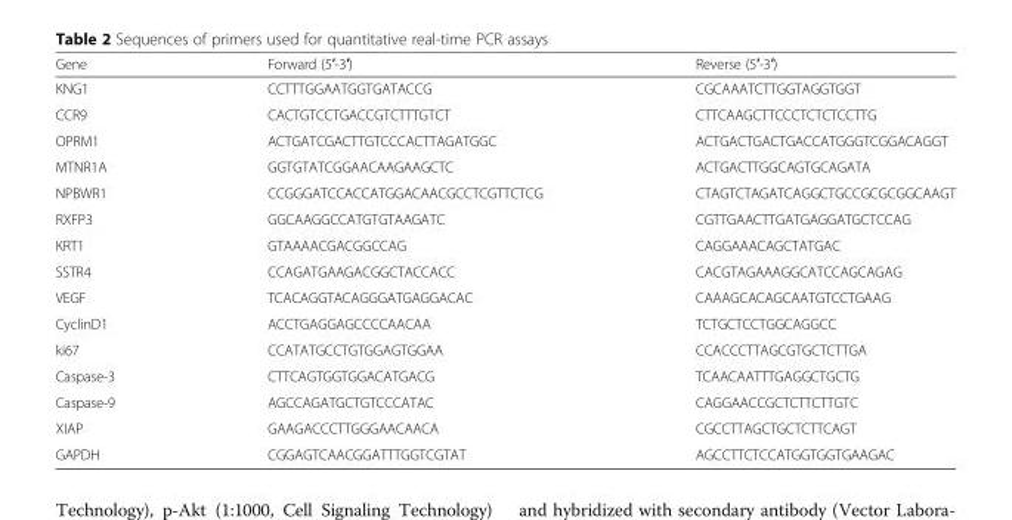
<table><thead><tr><td>Gene</td><td>Forward (5′-3′)</td><td>Reverse (5′-3′)</td></tr></thead><tbody><tr><td>KNG1</td><td>CCTTTGGAATGGTGATACCG</td><td>CGCAAATCTTGGTAGGTGGT</td></tr><tr><td>CCR9</td><td>CACTGTCCTGACCGTCTTTGTCT</td><td>CTTCAAGCTTCCCTCTCTCCTTG</td></tr><tr><td>OPRM1</td><td>ACTGATCGACTTGTCCCACTTAGATGGC</td><td>ACTGACTGACTGACCATGGGTCGGACAGGT</td></tr><tr><td>MTNR1A</td><td>GGTGTATCGGAACAAGAAGCTC</td><td>ACTGACTTGGCAGTGCAGATA</td></tr><tr><td>NPBWR1</td><td>CCGGGATCCACCATGGACAACGCCTCGTTCTCG</td><td>CTAGTCTAGATCAGGCTGCCGCGCGGCAAGT</td></tr><tr><td>RXFP3</td><td>GGCAAGGCCATGTGTAAGATC</td><td>CGTTGAACTTGATGAGGATGCTCCAG</td></tr><tr><td>KRT1</td><td>GTAAAACGACGGCCAG</td><td>CAGGAAACAGCTATGAC</td></tr><tr><td>SSTR4</td><td>CCAGATGAAGACGGCTACCACC</td><td>CACGTAGAAAGGCATCCAGCAGAG</td></tr><tr><td>VEGF</td><td>TCACAGGTACAGGGATGAGGACAC</td><td>CAAAGCACAGCAATGTCCTGAAG</td></tr><tr><td>CyclinD1</td><td>ACCTGAGGAGCCCCAACAA</td><td>TCTGCTCCTGGCAGGCC</td></tr><tr><td>ki67</td><td>CCATATGCCTGTGGAGTGGAA</td><td>CCACCCTTAGCGTGCTCTTGA</td></tr><tr><td>Caspase-3</td><td>CTTCAGTGGTGGACATGACG</td><td>TCAACAATTTGAGGCTGCTG</td></tr><tr><td>Caspase-9</td><td>AGCCAGATGCTGTCCCATAC</td><td>CAGGAACCGCTCTTCTTGTC</td></tr><tr><td>XIAP</td><td>GAAGACCCTTGGGAACAACA</td><td>CGCCTTAGCTGCTCTTCAGT</td></tr><tr><td>GAPDH</td><td>CGGAGTCAACGGATTTGGTCGTAT</td><td>AGCCTTCTCCATGGTGGTGAAGAC</td></tr></tbody></table>